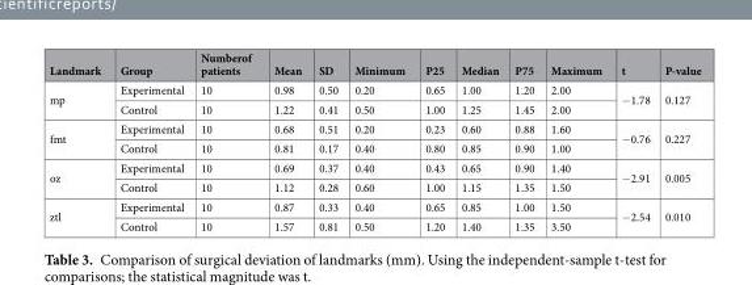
<table><thead><tr><td>Landmark</td><td>Group</td><td>Numberof patients</td><td>Mean</td><td>SD</td><td>Minimum</td><td>P25</td><td>Median</td><td>P75</td><td>Maximum</td><td>t</td><td>P-value</td></tr></thead><tbody><tr><td rowspan="2">mp</td><td>Experimental</td><td>10</td><td>0.98</td><td>0.50</td><td>0.20</td><td>0.65</td><td>1.00</td><td>1.20</td><td>2.00</td><td rowspan="2">−1.78</td><td rowspan="2">0.127</td></tr><tr><td>Control</td><td>10</td><td>1.22</td><td>0.41</td><td>0.50</td><td>1.00</td><td>1.25</td><td>1.45</td><td>2.00</td></tr><tr><td rowspan="2">fmt</td><td>Experimental</td><td>10</td><td>0.68</td><td>0.51</td><td>0.20</td><td>0.23</td><td>0.60</td><td>0.88</td><td>1.60</td><td rowspan="2">−0.76</td><td rowspan="2">0.227</td></tr><tr><td>Control</td><td>10</td><td>0.81</td><td>0.17</td><td>0.40</td><td>0.80</td><td>0.85</td><td>0.90</td><td>1.00</td></tr><tr><td rowspan="2">oz</td><td>Experimental</td><td>10</td><td>0.69</td><td>0.37</td><td>0.40</td><td>0.43</td><td>0.65</td><td>0.90</td><td>1.40</td><td rowspan="2">−2.91</td><td rowspan="2">0.005</td></tr><tr><td>Control</td><td>10</td><td>1.12</td><td>0.28</td><td>0.60</td><td>1.00</td><td>1.15</td><td>1.35</td><td>1.50</td></tr><tr><td rowspan="2">ztl</td><td>Experimental</td><td>10</td><td>0.87</td><td>0.33</td><td>0.40</td><td>0.65</td><td>0.85</td><td>1.00</td><td>1.50</td><td rowspan="2">−2.54</td><td rowspan="2">0.010</td></tr><tr><td>Control</td><td>10</td><td>1.57</td><td>0.81</td><td>0.50</td><td>1.20</td><td>1.40</td><td>1.35</td><td>3.50</td></tr></tbody></table>